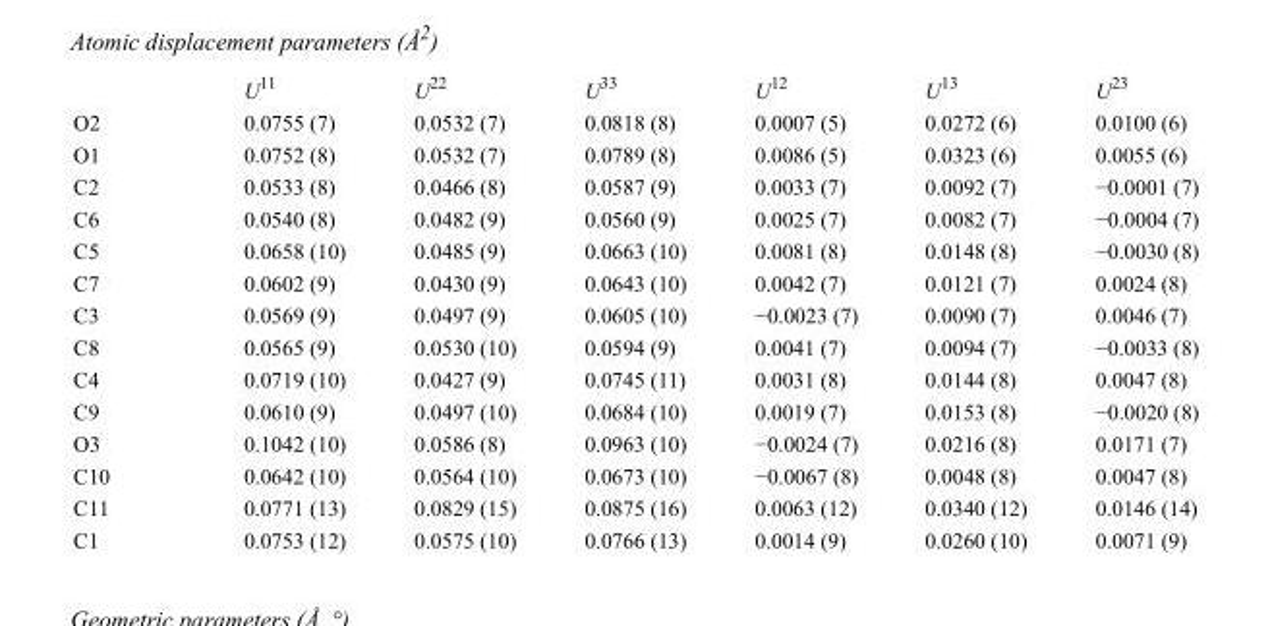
<table><thead><tr><td></td><td>U<sup>11</sup></td><td>U<sup>22</sup></td><td>U<sup>33</sup></td><td>U<sup>12</sup></td><td>U<sup>13</sup></td><td>U<sup>23</sup></td></tr></thead><tbody><tr><td>O2</td><td>0.0755 (7)</td><td>0.0532 (7)</td><td>0.0818 (8)</td><td>0.0007 (5)</td><td>0.0272 (6)</td><td>0.0100 (6)</td></tr><tr><td>O1</td><td>0.0752 (8)</td><td>0.0532 (7)</td><td>0.0789 (8)</td><td>0.0086 (5)</td><td>0.0323 (6)</td><td>0.0055 (6)</td></tr><tr><td>C2</td><td>0.0533 (8)</td><td>0.0466 (8)</td><td>0.0587 (9)</td><td>0.0033 (7)</td><td>0.0092 (7)</td><td>−0.0001 (7)</td></tr><tr><td>C6</td><td>0.0540 (8)</td><td>0.0482 (9)</td><td>0.0560 (9)</td><td>0.0025 (7)</td><td>0.0082 (7)</td><td>−0.0004 (7)</td></tr><tr><td>C5</td><td>0.0658 (10)</td><td>0.0485 (9)</td><td>0.0663 (10)</td><td>0.0081 (8)</td><td>0.0148 (8)</td><td>−0.0030 (8)</td></tr><tr><td>C7</td><td>0.0602 (9)</td><td>0.0430 (9)</td><td>0.0643 (10)</td><td>0.0042 (7)</td><td>0.0121 (7)</td><td>0.0024 (8)</td></tr><tr><td>C3</td><td>0.0569 (9)</td><td>0.0497 (9)</td><td>0.0605 (10)</td><td>−0.0023 (7)</td><td>0.0090 (7)</td><td>0.0046 (7)</td></tr><tr><td>C8</td><td>0.0565 (9)</td><td>0.0530 (10)</td><td>0.0594 (9)</td><td>0.0041 (7)</td><td>0.0094 (7)</td><td>−0.0033 (8)</td></tr><tr><td>C4</td><td>0.0719 (10)</td><td>0.0427 (9)</td><td>0.0745 (11)</td><td>0.0031 (8)</td><td>0.0144 (8)</td><td>0.0047 (8)</td></tr><tr><td>C9</td><td>0.0610 (9)</td><td>0.0497 (10)</td><td>0.0684 (10)</td><td>0.0019 (7)</td><td>0.0153 (8)</td><td>−0.0020 (8)</td></tr><tr><td>O3</td><td>0.1042 (10)</td><td>0.0586 (8)</td><td>0.0963 (10)</td><td>−0.0024 (7)</td><td>0.0216 (8)</td><td>0.0171 (7)</td></tr><tr><td>C10</td><td>0.0642 (10)</td><td>0.0564 (10)</td><td>0.0673 (10)</td><td>−0.0067 (8)</td><td>0.0048 (8)</td><td>0.0047 (8)</td></tr><tr><td>C11</td><td>0.0771 (13)</td><td>0.0829 (15)</td><td>0.0875 (16)</td><td>0.0063 (12)</td><td>0.0340 (12)</td><td>0.0146 (14)</td></tr><tr><td>C1</td><td>0.0753 (12)</td><td>0.0575 (10)</td><td>0.0766 (13)</td><td>0.0014 (9)</td><td>0.0260 (10)</td><td>0.0071 (9)</td></tr></tbody></table>